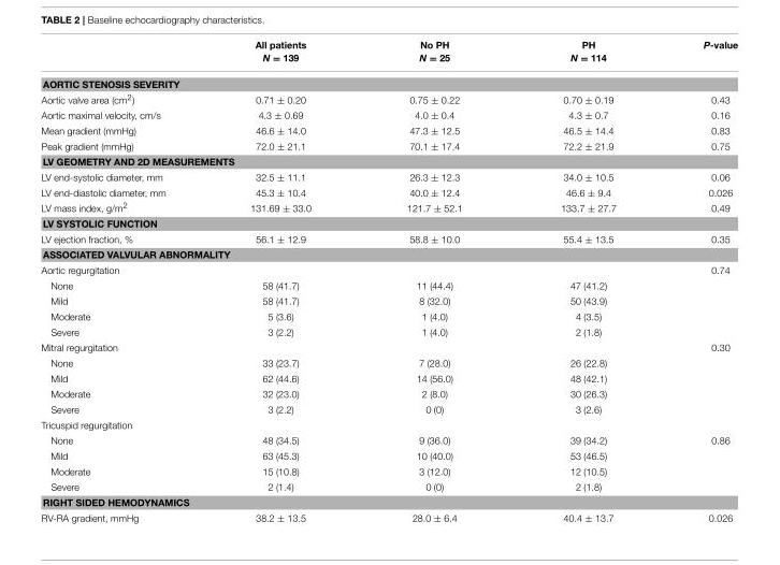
<table><thead><tr><td></td><td>All patients N = 139</td><td>No PH N = 25</td><td>PH N = 114</td><td>P-value</td></tr></thead><tbody><tr><td colspan="5">AORTIC STENOSIS SEVERITY</td></tr><tr><td>Aortic valve area (cm<sup>2</sup>)</td><td>0.71 ± 0.20</td><td>0.75 ± 0.22</td><td>0.70 ± 0.19</td><td>0.43</td></tr><tr><td>Aortic maximal velocity, cm/s</td><td>4.3 ± 0.69</td><td>4.0 ± 0.4</td><td>4.3 ± 0.7</td><td>0.16</td></tr><tr><td>Mean gradient (mmHg)</td><td>46.6 ± 14.0</td><td>47.3 ± 12.5</td><td>46.5 ± 14.4</td><td>0.83</td></tr><tr><td>Peak gradient (mmHg)</td><td>72.0 ± 21.1</td><td>70.1 ± 17.4</td><td>72.2 ± 21.9</td><td>0.75</td></tr><tr><td colspan="5">LV GEOMETRY AND 2D MEASUREMENTS</td></tr><tr><td>LV end-systolic diameter, mm</td><td>32.5 ± 11.1</td><td>26.3 ± 12.3</td><td>34.0 ± 10.5</td><td>0.06</td></tr><tr><td>LV end-diastolic diameter, mm</td><td>45.3 ± 10.4</td><td>40.0 ± 12.4</td><td>46.6 ± 9.4</td><td>0.026</td></tr><tr><td>LV mass index, g/m<sup>2</sup></td><td>131.69 ± 33.0</td><td>121.7 ± 52.1</td><td>133.7 ± 27.7</td><td>0.49</td></tr><tr><td colspan="5">LV SYSTOLIC FUNCTION</td></tr><tr><td>LV ejection fraction, %</td><td>56.1 ± 12.9</td><td>58.8 ± 10.0</td><td>55.4 ± 13.5</td><td>0.35</td></tr><tr><td colspan="5">ASSOCIATED VALVULAR ABNORMALITY</td></tr><tr><td>Aortic regurgitation</td><td></td><td></td><td></td><td>0.74</td></tr><tr><td>None</td><td>58 (41.7)</td><td>11 (44.4)</td><td>47 (41.2)</td><td></td></tr><tr><td>Mild</td><td>58 (41.7)</td><td>8 (32.0)</td><td>50 (43.9)</td><td></td></tr><tr><td>Moderate</td><td>5 (3.6)</td><td>1 (4.0)</td><td>4 (3.5)</td><td></td></tr><tr><td>Severe</td><td>3 (2.2)</td><td>1 (4.0)</td><td>2 (1.8)</td><td></td></tr><tr><td>Mitral regurgitation</td><td></td><td></td><td></td><td>0.30</td></tr><tr><td>None</td><td>33 (23.7)</td><td>7 (28.0)</td><td>26 (22.8)</td><td></td></tr><tr><td>Mild</td><td>62 (44.6)</td><td>14 (56.0)</td><td>48 (42.1)</td><td></td></tr><tr><td>Moderate</td><td>32 (23.0)</td><td>2 (8.0)</td><td>30 (26.3)</td><td></td></tr><tr><td>Severe</td><td>3 (2.2)</td><td>0 (0)</td><td>3 (2.6)</td><td></td></tr><tr><td colspan="5">Tricuspid regurgitation</td></tr><tr><td>None</td><td>48 (34.5)</td><td>9 (36.0)</td><td>39 (34.2)</td><td>0.86</td></tr><tr><td>Mild</td><td>63 (45.3)</td><td>10 (40.0)</td><td>53 (46.5)</td><td></td></tr><tr><td>Moderate</td><td>15 (10.8)</td><td>3 (12.0)</td><td>12 (10.5)</td><td></td></tr><tr><td>Severe</td><td>2 (1.4)</td><td>0 (0)</td><td>2 (1.8)</td><td></td></tr><tr><td colspan="5">RIGHT SIDED HEMODYNAMICS</td></tr><tr><td>RV-RA gradient, mmHg</td><td>38.2 ± 13.5</td><td>28.0 ± 6.4</td><td>40.4 ± 13.7</td><td>0.026</td></tr></tbody></table>